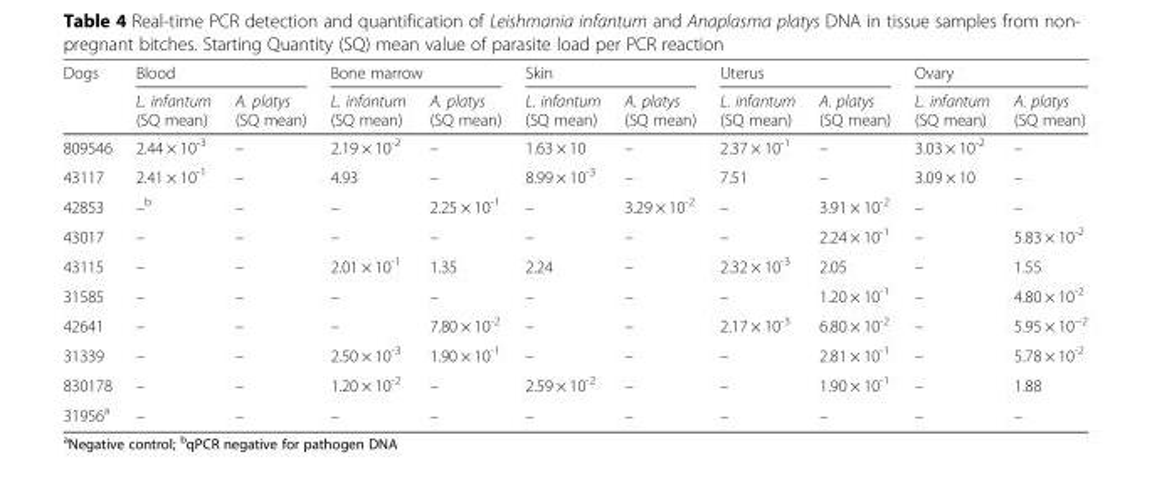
<table><thead><tr><td rowspan="2">Dogs</td><td colspan="2">Blood</td><td colspan="2">Bone marrow</td><td colspan="2">Skin</td><td colspan="2">Uterus</td><td colspan="2">Ovary</td></tr><tr><td>L. infantum (SQ mean)</td><td>A. platys (SQ mean)</td><td>L. infantum (SQ mean)</td><td>A. platys (SQ mean)</td><td>L. infantum (SQ mean)</td><td>A. platys (SQ mean)</td><td>L. infantum (SQ mean)</td><td>A. platys (SQ mean)</td><td>L. infantum (SQ mean)</td><td>A. platys (SQ mean)</td></tr></thead><tbody><tr><td>809546</td><td>2.44 × 10<sup>-3</sup></td><td>–</td><td>2.19 × 10<sup>-2</sup></td><td>–</td><td>1.63 × 10</td><td>–</td><td>2.37 × 10<sup>-1</sup></td><td>–</td><td>3.03 × 10<sup>-2</sup></td><td>–</td></tr><tr><td>43117</td><td>2.41 × 10<sup>-1</sup></td><td>–</td><td>4.93</td><td>–</td><td>8.99 × 10<sup>-3</sup></td><td>–</td><td>7.51</td><td>–</td><td>3.09 × 10</td><td>–</td></tr><tr><td>42853</td><td>–<sup>b</sup></td><td>–</td><td>–</td><td>2.25 × 10<sup>-1</sup></td><td>–</td><td>3.29 × 10<sup>-2</sup></td><td>–</td><td>3.91 × 10<sup>-2</sup></td><td>–</td><td>–</td></tr><tr><td>43017</td><td>–</td><td>–</td><td>–</td><td>–</td><td>–</td><td>–</td><td>–</td><td>2.24 × 10<sup>-1</sup></td><td>–</td><td>5.83 × 10<sup>-2</sup></td></tr><tr><td>43115</td><td>–</td><td>–</td><td>2.01 × 10<sup>-1</sup></td><td>1.35</td><td>2.24</td><td>–</td><td>2.32 × 10<sup>-3</sup></td><td>2.05</td><td>–</td><td>1.55</td></tr><tr><td>31585</td><td>–</td><td>–</td><td>–</td><td>–</td><td>–</td><td>–</td><td>–</td><td>1.20 × 10<sup>-1</sup></td><td>–</td><td>4.80 × 10<sup>-2</sup></td></tr><tr><td>42641</td><td>–</td><td>–</td><td>–</td><td>7.80 × 10<sup>-2</sup></td><td>–</td><td>–</td><td>2.17 × 10<sup>-3</sup></td><td>6.80 × 10<sup>-2</sup></td><td>–</td><td>5.95 × 10<sup>−2</sup></td></tr><tr><td>31339</td><td>–</td><td>–</td><td>2.50 × 10<sup>-3</sup></td><td>1.90 × 10<sup>-1</sup></td><td>–</td><td>–</td><td>–</td><td>2.81 × 10<sup>-1</sup></td><td>–</td><td>5.78 × 10<sup>-2</sup></td></tr><tr><td>830178</td><td>–</td><td>–</td><td>1.20 × 10<sup>-2</sup></td><td>–</td><td>2.59 × 10<sup>-2</sup></td><td>–</td><td>–</td><td>1.90 × 10<sup>-1</sup></td><td>–</td><td>1.88</td></tr><tr><td>31956<sup>a</sup></td><td>–</td><td>–</td><td>–</td><td>–</td><td>–</td><td>–</td><td>–</td><td>–</td><td>–</td><td>–</td></tr></tbody></table>